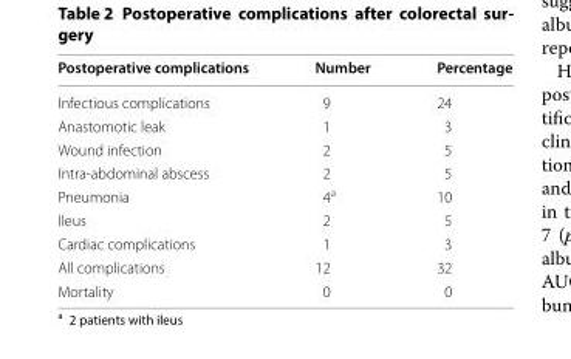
<table><thead><tr><td>Postoperative complications</td><td>Number</td><td>Percentage</td></tr></thead><tbody><tr><td>Infectious complications</td><td>9</td><td>24</td></tr><tr><td>Anastomotic leak</td><td>1</td><td>3</td></tr><tr><td>Wound infection</td><td>2</td><td>5</td></tr><tr><td>Intra-abdominal abscess</td><td>2</td><td>5</td></tr><tr><td>Pneumonia</td><td>4<sup>a</sup></td><td>10</td></tr><tr><td>Ileus</td><td>2</td><td>5</td></tr><tr><td>Cardiac complications</td><td>1</td><td>3</td></tr><tr><td>All complications</td><td>12</td><td>32</td></tr><tr><td>Mortality</td><td>0</td><td>0</td></tr></tbody></table>